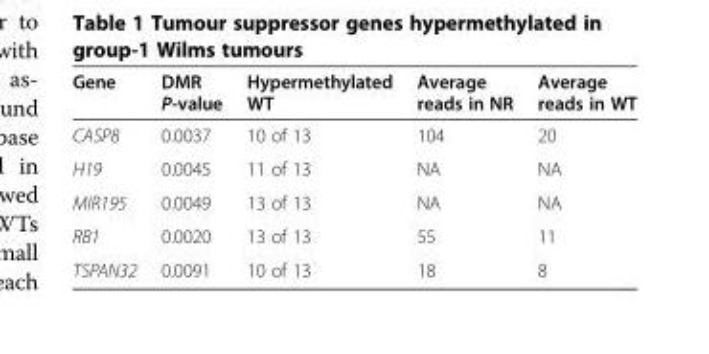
<table><thead><tr><td>Gene</td><td>DMR P-value</td><td>Hypermethylated WT</td><td>Average reads in NR</td><td>Average reads in WT</td></tr></thead><tbody><tr><td>CASP8</td><td>0.0037</td><td>10 of 13</td><td>104</td><td>20</td></tr><tr><td>H19</td><td>0.0045</td><td>11 of 13</td><td>NA</td><td>NA</td></tr><tr><td>MIR195</td><td>0.0049</td><td>13 of 13</td><td>NA</td><td>NA</td></tr><tr><td>RB1</td><td>0.0020</td><td>13 of 13</td><td>55</td><td>11</td></tr><tr><td>TSPAN32</td><td>0.0091</td><td>10 of 13</td><td>18</td><td>8</td></tr></tbody></table>